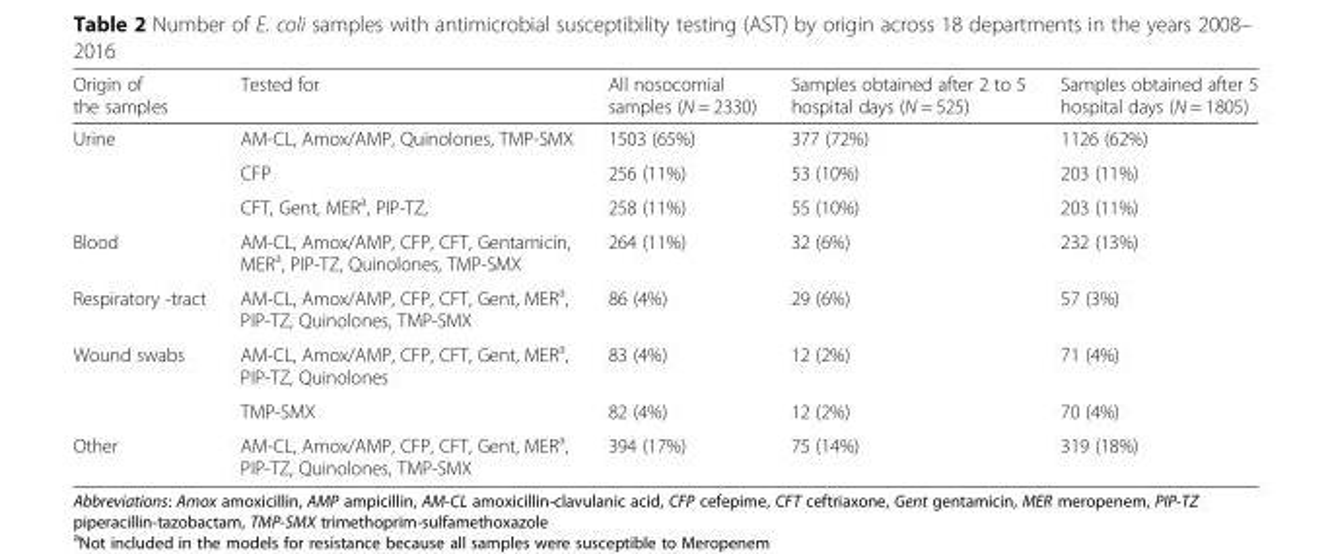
<table><thead><tr><td>Origin of the samples</td><td>Tested for</td><td>All nosocomial samples (N = 2330)</td><td>Samples obtained after 2 to 5 hospital days (N = 525)</td><td>Samples obtained after 5 hospital days (N = 1805)</td></tr></thead><tbody><tr><td rowspan="3">Urine</td><td>AM-CL, Amox/AMP, Quinolones, TMP-SMX</td><td>1503 (65%)</td><td>377 (72%)</td><td>1126 (62%)</td></tr><tr><td>CFP</td><td>256 (11%)</td><td>53 (10%)</td><td>203 (11%)</td></tr><tr><td>CFT, Gent, MER<sup>a</sup>, PIP-TZ,</td><td>258 (11%)</td><td>55 (10%)</td><td>203 (11%)</td></tr><tr><td>Blood</td><td>AM-CL, Amox/AMP, CFP, CFT, Gentamicin, MER<sup>a</sup>, PIP-TZ, Quinolones, TMP-SMX</td><td>264 (11%)</td><td>32 (6%)</td><td>232 (13%)</td></tr><tr><td>Respiratory -tract</td><td>AM-CL, Amox/AMP, CFP, CFT, Gent, MER<sup>a</sup>, PIP-TZ, Quinolones, TMP-SMX</td><td>86 (4%)</td><td>29 (6%)</td><td>57 (3%)</td></tr><tr><td rowspan="2">Wound swabs</td><td>AM-CL, Amox/AMP, CFP, CFT, Gent, MER<sup>a</sup>, PIP-TZ, Quinolones</td><td>83 (4%)</td><td>12 (2%)</td><td>71 (4%)</td></tr><tr><td>TMP-SMX</td><td>82 (4%)</td><td>12 (2%)</td><td>70 (4%)</td></tr><tr><td>Other</td><td>AM-CL, Amox/AMP, CFP, CFT, Gent, MER<sup>a</sup>, PIP-TZ, Quinolones, TMP-SMX</td><td>394 (17%)</td><td>75 (14%)</td><td>319 (18%)</td></tr></tbody></table>